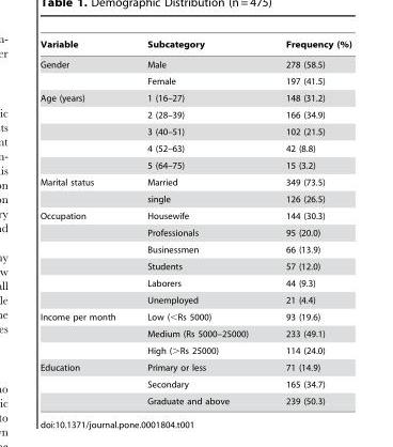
<table><thead><tr><td>Variable</td><td>Subcategory</td><td>Frequency (%)</td></tr></thead><tbody><tr><td rowspan="2">Gender</td><td>Male</td><td>278 (58.5)</td></tr><tr><td>Female</td><td>197 (41.5)</td></tr><tr><td rowspan="5">Age (years)</td><td>1 (16–27)</td><td>148 (31.2)</td></tr><tr><td>2 (28–39)</td><td>166 (34.9)</td></tr><tr><td>3 (40–51)</td><td>102 (21.5)</td></tr><tr><td>4 (52–63)</td><td>42 (8.8)</td></tr><tr><td>5 (64–75)</td><td>15 (3.2)</td></tr><tr><td rowspan="2">Marital status</td><td>Married</td><td>349 (73.5)</td></tr><tr><td>single</td><td>126 (26.5)</td></tr><tr><td rowspan="6">Occupation</td><td>Housewife</td><td>144 (30.3)</td></tr><tr><td>Professionals</td><td>95 (20.0)</td></tr><tr><td>Businessmen</td><td>66 (13.9)</td></tr><tr><td>Students</td><td>57 (12.0)</td></tr><tr><td>Laborers</td><td>44 (9.3)</td></tr><tr><td>Unemployed</td><td>21 (4.4)</td></tr><tr><td rowspan="3">Income per month</td><td>Low (&lt;Rs 5000)</td><td>93 (19.6)</td></tr><tr><td>Medium (Rs 5000–25000)</td><td>233 (49.1)</td></tr><tr><td>High (&gt;Rs 25000)</td><td>114 (24.0)</td></tr><tr><td rowspan="3">Education</td><td>Primary or less</td><td>71 (14.9)</td></tr><tr><td>Secondary</td><td>165 (34.7)</td></tr><tr><td>Graduate and above</td><td>239 (50.3)</td></tr></tbody></table>